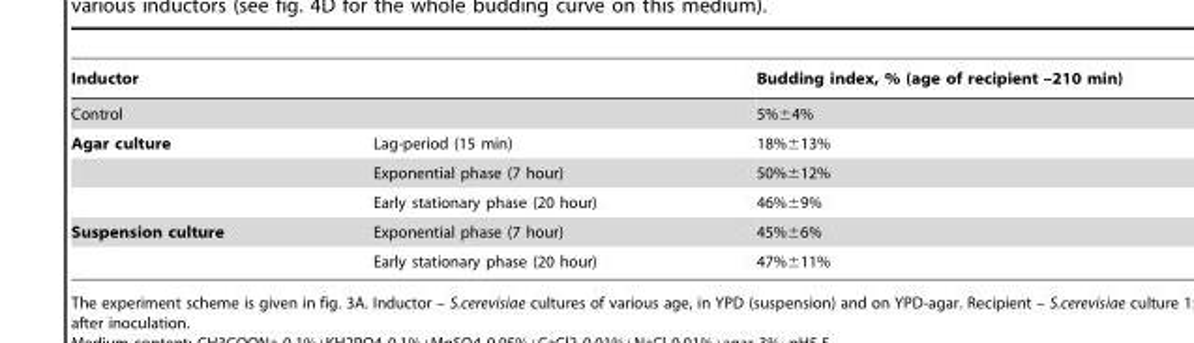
<table><thead><tr><td rowspan="2" colspan="2">Inductor Control</td><td rowspan="3">Budding index, % (age of recipient –210 min) 5%±4% 18%±13%</td></tr><tr></tr><tr><td>Agar culture</td><td>Lag-period (15 min)</td></tr></thead><tbody><tr><td></td><td>Exponential phase (7 hour)</td><td>50%±12%</td></tr><tr><td></td><td>Early stationary phase (20 hour)</td><td>46%±9%</td></tr><tr><td rowspan="2">Suspension culture</td><td>Exponential phase (7 hour)</td><td>45%±6%</td></tr><tr><td>Early stationary phase (20 hour)</td><td>47%±11%</td></tr></tbody></table>